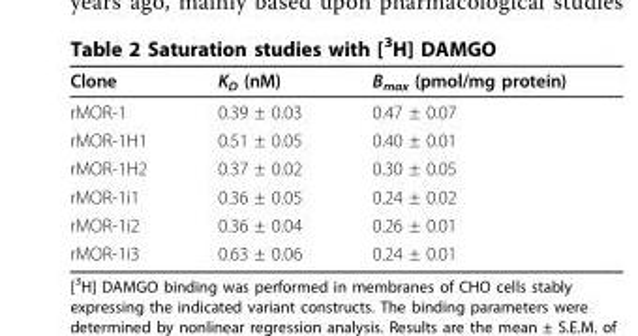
<table><thead><tr><td>Clone</td><td>K<sub>D</sub> (nM)</td><td>B<sub>max</sub> (pmol/mg protein)</td></tr></thead><tbody><tr><td>rMOR-1</td><td>0.39 ± 0.03</td><td>0.47 ± 0.07</td></tr><tr><td>rMOR-1H1</td><td>0.51 ± 0.05</td><td>0.40 ± 0.01</td></tr><tr><td>rMOR-1H2</td><td>0.37 ± 0.02</td><td>0.30 ± 0.05</td></tr><tr><td>rMOR-1i1</td><td>0.36 ± 0.05</td><td>0.24 ± 0.02</td></tr><tr><td>rMOR-1i2</td><td>0.36 ± 0.04</td><td>0.26 ± 0.01</td></tr><tr><td>rMOR-1i3</td><td>0.63 ± 0.06</td><td>0.24 ± 0.01</td></tr></tbody></table>